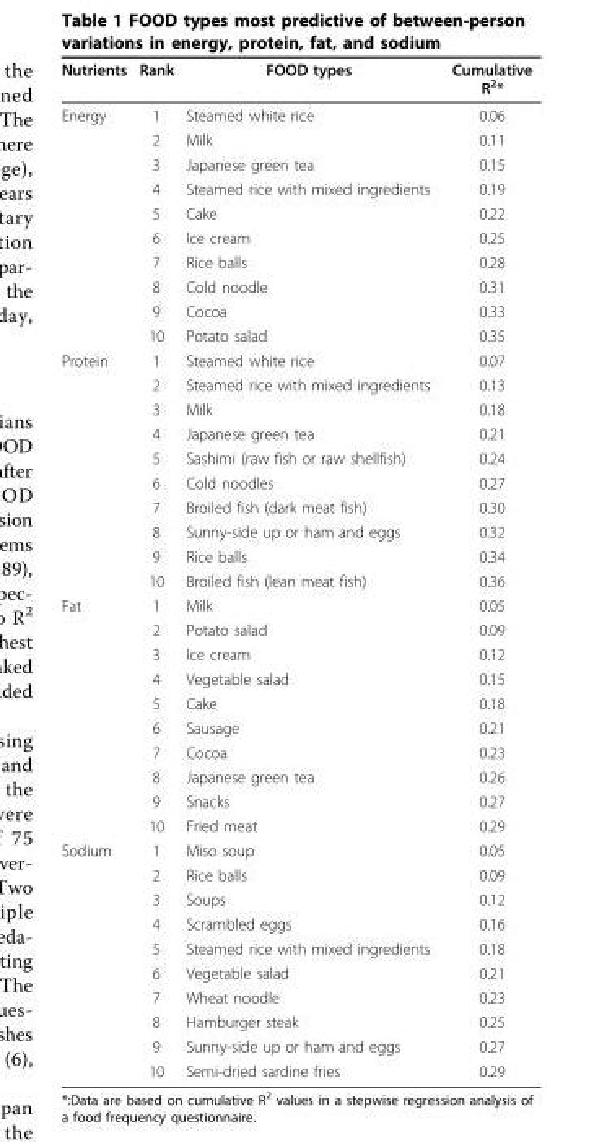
<table><thead><tr><td>Nutrients</td><td>Rank</td><td>FOOD types</td><td>Cumulative R<sup>2</sup>*</td></tr></thead><tbody><tr><td rowspan="10">Energy</td><td>1</td><td>Steamed white rice</td><td>0.06</td></tr><tr><td>2</td><td>Milk</td><td>0.11</td></tr><tr><td>3</td><td>Japanese green tea</td><td>0.15</td></tr><tr><td>4</td><td>Steamed rice with mixed ingredients</td><td>0.19</td></tr><tr><td>5</td><td>Cake</td><td>0.22</td></tr><tr><td>6</td><td>Ice cream</td><td>0.25</td></tr><tr><td>7</td><td>Rice balls</td><td>0.28</td></tr><tr><td>8</td><td>Cold noodle</td><td>0.31</td></tr><tr><td>9</td><td>Cocoa</td><td>0.33</td></tr><tr><td>10</td><td>Potato salad</td><td>0.35</td></tr><tr><td rowspan="10">Protein</td><td>1</td><td>Steamed white rice</td><td>0.07</td></tr><tr><td>2</td><td>Steamed rice with mixed ingredients</td><td>0.13</td></tr><tr><td>3</td><td>Milk</td><td>0.18</td></tr><tr><td>4</td><td>Japanese green tea</td><td>0.21</td></tr><tr><td>5</td><td>Sashimi (raw fish or raw shellfish)</td><td>0.24</td></tr><tr><td>6</td><td>Cold noodles</td><td>0.27</td></tr><tr><td>7</td><td>Broiled fish (dark meat fish)</td><td>0.30</td></tr><tr><td>8</td><td>Sunny-side up or ham and eggs</td><td>0.32</td></tr><tr><td>9</td><td>Rice balls</td><td>0.34</td></tr><tr><td>10</td><td>Broiled fish (lean meat fish)</td><td>0.36</td></tr><tr><td rowspan="10">Fat</td><td>1</td><td>Milk</td><td>0.05</td></tr><tr><td>2</td><td>Potato salad</td><td>0.09</td></tr><tr><td>3</td><td>Ice cream</td><td>0.12</td></tr><tr><td>4</td><td>Vegetable salad</td><td>0.15</td></tr><tr><td>5</td><td>Cake</td><td>0.18</td></tr><tr><td>6</td><td>Sausage</td><td>0.21</td></tr><tr><td>7</td><td>Cocoa</td><td>0.23</td></tr><tr><td>8</td><td>Japanese green tea</td><td>0.26</td></tr><tr><td>9</td><td>Snacks</td><td>0.27</td></tr><tr><td>10</td><td>Fried meat</td><td>0.29</td></tr><tr><td rowspan="10">Sodium</td><td>1</td><td>Miso soup</td><td>0.05</td></tr><tr><td>2</td><td>Rice balls</td><td>0.09</td></tr><tr><td>3</td><td>Soups</td><td>0.12</td></tr><tr><td>4</td><td>Scrambled eggs</td><td>0.16</td></tr><tr><td>5</td><td>Steamed rice with mixed ingredients</td><td>0.18</td></tr><tr><td>6</td><td>Vegetable salad</td><td>0.21</td></tr><tr><td>7</td><td>Wheat noodle</td><td>0.23</td></tr><tr><td>8</td><td>Hamburger steak</td><td>0.25</td></tr><tr><td>9</td><td>Sunny-side up or ham and eggs</td><td>0.27</td></tr><tr><td>10</td><td>Semi-dried sardine fries</td><td>0.29</td></tr></tbody></table>